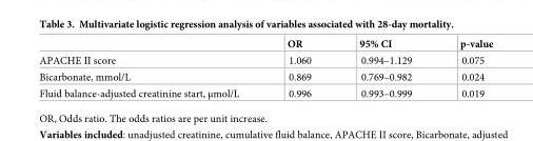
<table><thead><tr><td></td><td>OR</td><td>95% CI</td><td>p-value</td></tr></thead><tbody><tr><td>APACHE II score</td><td>1.060</td><td>0.994–1.129</td><td>0.075</td></tr><tr><td>Bicarbonate, mmol/L</td><td>0.869</td><td>0.769–0.982</td><td>0.024</td></tr><tr><td>Fluid balance-adjusted creatinine start, μmol/L</td><td>0.996</td><td>0.993–0.999</td><td>0.019</td></tr></tbody></table>